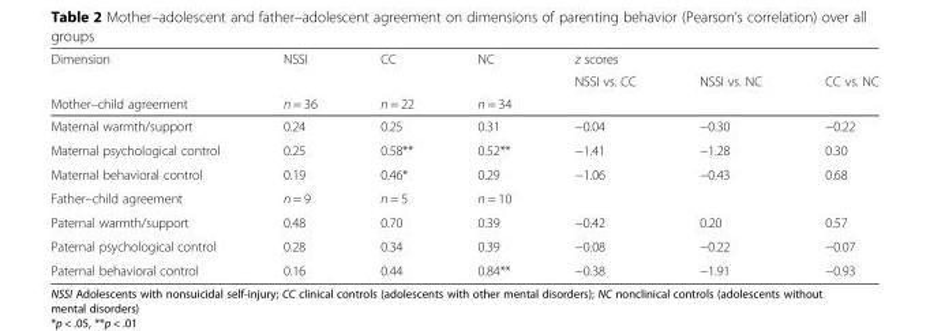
<table><thead><tr><td rowspan="3">Dimension Mother–child agreement</td><td rowspan="3">NSSI n = 36</td><td rowspan="3">CC n = 22</td><td rowspan="3">NC n = 34</td><td colspan="3">z scores</td></tr><tr><td rowspan="2">NSSI vs. CC</td><td rowspan="2">NSSI vs. NC</td><td rowspan="2">CC vs. NC</td></tr><tr></tr></thead><tbody><tr><td>Maternal warmth/support</td><td>0.24</td><td>0.25</td><td>0.31</td><td>−0.04</td><td>−0.30</td><td>−0.22</td></tr><tr><td>Maternal psychological control</td><td>0.25</td><td>0.58**</td><td>0.52**</td><td>−1.41</td><td>−1.28</td><td>0.30</td></tr><tr><td>Maternal behavioral control</td><td>0.19</td><td>0.46*</td><td>0.29</td><td>−1.06</td><td>−0.43</td><td>0.68</td></tr><tr><td>Father–child agreement</td><td>n = 9</td><td>n = 5</td><td>n = 10</td><td colspan="3"></td></tr><tr><td>Paternal warmth/support</td><td>0.48</td><td>0.70</td><td>0.39</td><td>−0.42</td><td>0.20</td><td>0.57</td></tr><tr><td>Paternal psychological control</td><td>0.28</td><td>0.34</td><td>0.39</td><td>−0.08</td><td>−0.22</td><td>−0.07</td></tr><tr><td>Paternal behavioral control</td><td>0.16</td><td>0.44</td><td>0.84**</td><td>−0.38</td><td>−1.91</td><td>−0.93</td></tr></tbody></table>